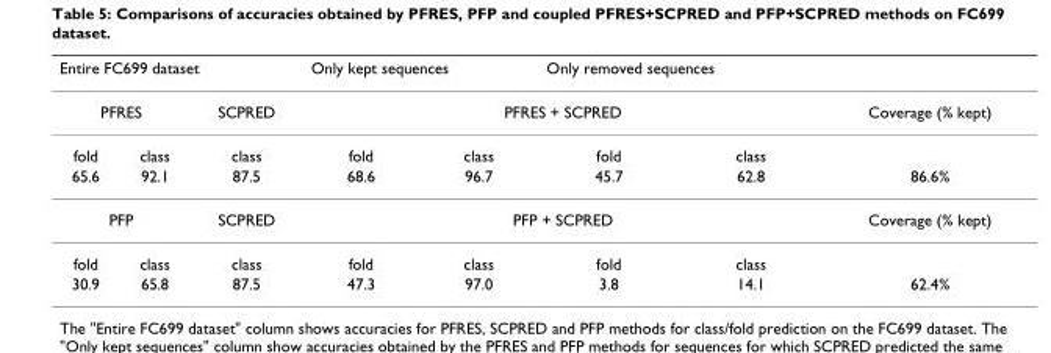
<table><thead><tr><td colspan="3">Entire FC699 dataset</td><td colspan="2">Only kept sequences</td><td colspan="2">Only removed sequences</td><td rowspan="3">Coverage (% kept)</td></tr><tr><td colspan="2">PFRES</td><td rowspan="2">SCPRED class</td><td colspan="4">PFRES + SCPRED</td></tr><tr><td>fold</td><td>class</td><td>fold</td><td>class</td><td>fold</td><td>class</td></tr></thead><tbody><tr><td>65.6</td><td>92.1</td><td>87.5</td><td>68.6</td><td>96.7</td><td>45.7</td><td>62.8</td><td>86.6%</td></tr><tr><td colspan="2">PFP</td><td>SCPRED</td><td colspan="4">PFP + SCPRED</td><td>Coverage (% kept)</td></tr><tr><td>fold</td><td>class</td><td>class</td><td>fold</td><td>class</td><td>fold</td><td>class</td><td></td></tr><tr><td>30.9</td><td>65.8</td><td>87.5</td><td>47.3</td><td>97.0</td><td>3.8</td><td>14.1</td><td>62.4%</td></tr></tbody></table>